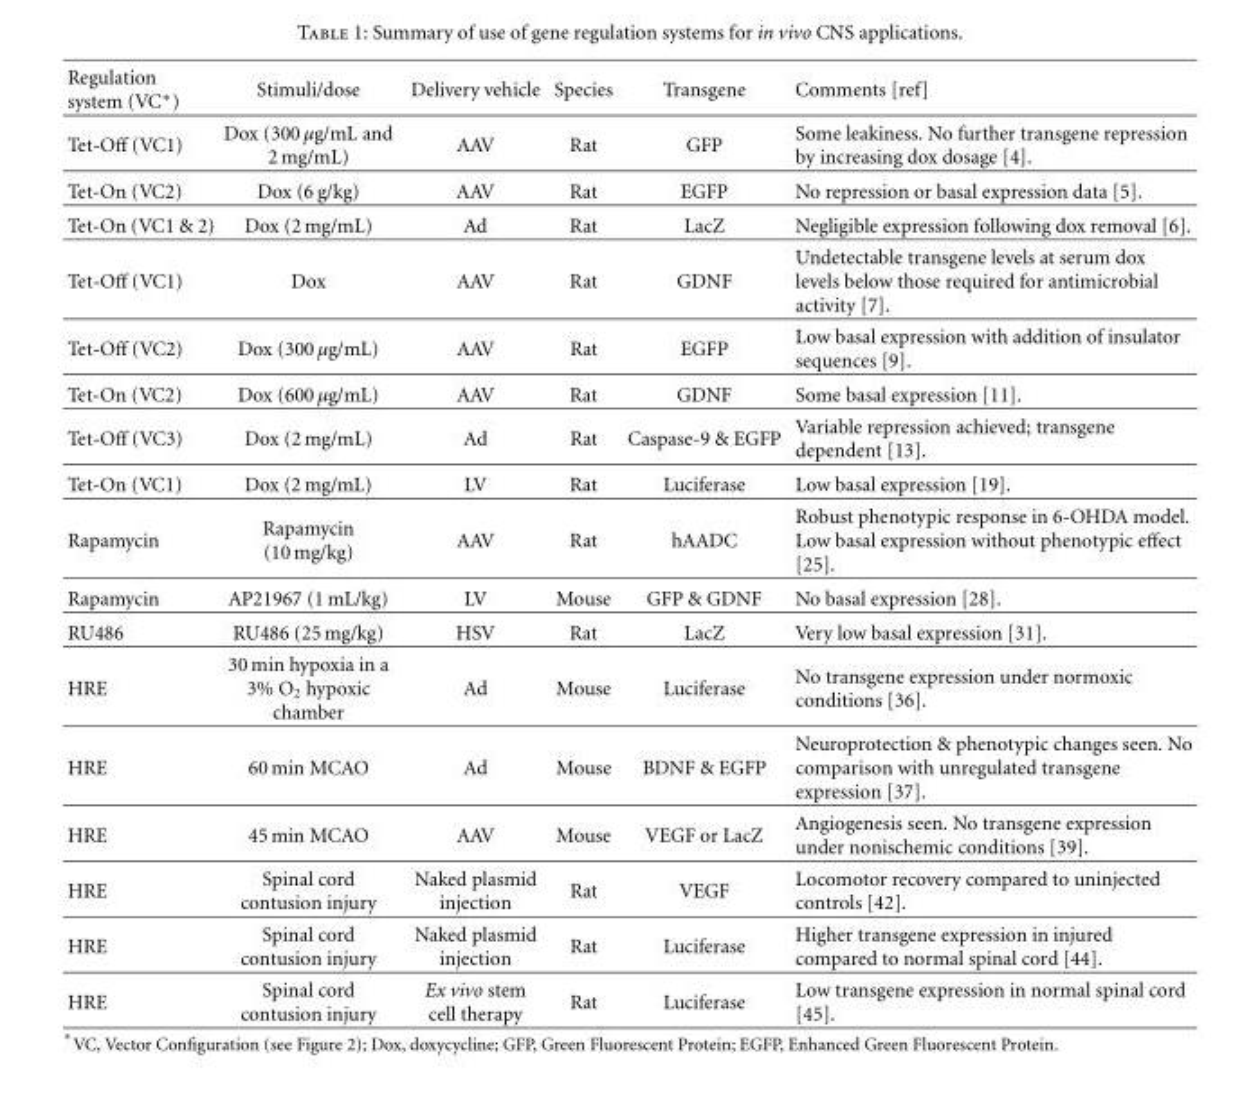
<table><thead><tr><td>Regulation system (VC∗)</td><td>Stimuli/dose</td><td>Delivery vehicle</td><td>Species</td><td>Transgene</td><td>Comments [ref]</td></tr></thead><tbody><tr><td>Tet-Off (VC1)</td><td>Dox (300 μg/mL and 2 mg/mL)</td><td>AAV</td><td>Rat</td><td>GFP</td><td>Some leakiness. No further transgene repression by increasing dox dosage [4].</td></tr><tr><td>Tet-On (VC2)</td><td>Dox (6 g/kg)</td><td>AAV</td><td>Rat</td><td>EGFP</td><td>No repression or basal expression data [5].</td></tr><tr><td>Tet-On (VC1 &amp; 2)</td><td>Dox (2 mg/mL)</td><td>Ad</td><td>Rat</td><td>LacZ</td><td>Negligible expression following dox removal [6].</td></tr><tr><td>Tet-Off (VC1)</td><td>Dox</td><td>AAV</td><td>Rat</td><td>GDNF</td><td>Undetectable transgene levels at serum dox levels below those required for antimicrobial activity [7].</td></tr><tr><td>Tet-Off (VC2)</td><td>Dox (300 μg/mL)</td><td>AAV</td><td>Rat</td><td>EGFP</td><td>Low basal expression with addition of insulator sequences [9].</td></tr><tr><td>Tet-On (VC2)</td><td>Dox (600 μg/mL)</td><td>AAV</td><td>Rat</td><td>GDNF</td><td>Some basal expression [11].</td></tr><tr><td>Tet-Off (VC3)</td><td>Dox (2 mg/mL)</td><td>Ad</td><td>Rat</td><td>Caspase-9 &amp; EGFP</td><td>Variable repression achieved; transgene dependent [13].</td></tr><tr><td>Tet-On (VC1)</td><td>Dox (2 mg/mL)</td><td>LV</td><td>Rat</td><td>Luciferase</td><td>Low basal expression [19].</td></tr><tr><td>Rapamycin</td><td>Rapamycin (10 mg/kg)</td><td>AAV</td><td>Rat</td><td>hAADC</td><td>Robust phenotypic response in 6-OHDA model. Low basal expression without phenotypic effect [25].</td></tr><tr><td>Rapamycin</td><td>AP21967 (1 mL/kg)</td><td>LV</td><td>Mouse</td><td>GFP &amp; GDNF</td><td>No basal expression [28].</td></tr><tr><td>RU486</td><td>RU486 (25 mg/kg)</td><td>HSV</td><td>Rat</td><td>LacZ</td><td>Very low basal expression [31].</td></tr><tr><td>HRE</td><td>30 min hypoxia in a 3% O<sub>2</sub> hypoxic chamber</td><td>Ad</td><td>Mouse</td><td>Luciferase</td><td>No transgene expression under normoxic conditions [36].</td></tr><tr><td>HRE</td><td>60 min MCAO</td><td>Ad</td><td>Mouse</td><td>BDNF &amp; EGFP</td><td>Neuroprotection &amp; phenotypic changes seen. No comparison with unregulated transgene expression [37].</td></tr><tr><td>HRE</td><td>45 min MCAO</td><td>AAV</td><td>Mouse</td><td>VEGF or LacZ</td><td>Angiogenesis seen. No transgene expression under nonischemic conditions [39].</td></tr><tr><td>HRE</td><td>Spinal cord contusion injury</td><td>Naked plasmid injection</td><td>Rat</td><td>VEGF</td><td>Locomotor recovery compared to uninjected controls [42].</td></tr><tr><td>HRE</td><td>Spinal cord contusion injury</td><td>Naked plasmid injection</td><td>Rat</td><td>Luciferase</td><td>Higher transgene expression in injured compared to normal spinal cord [44].</td></tr><tr><td>HRE</td><td>Spinal cord contusion injury</td><td>Ex vivo stem cell therapy</td><td>Rat</td><td>Luciferase</td><td>Low transgene expression in normal spinal cord [45].</td></tr></tbody></table>